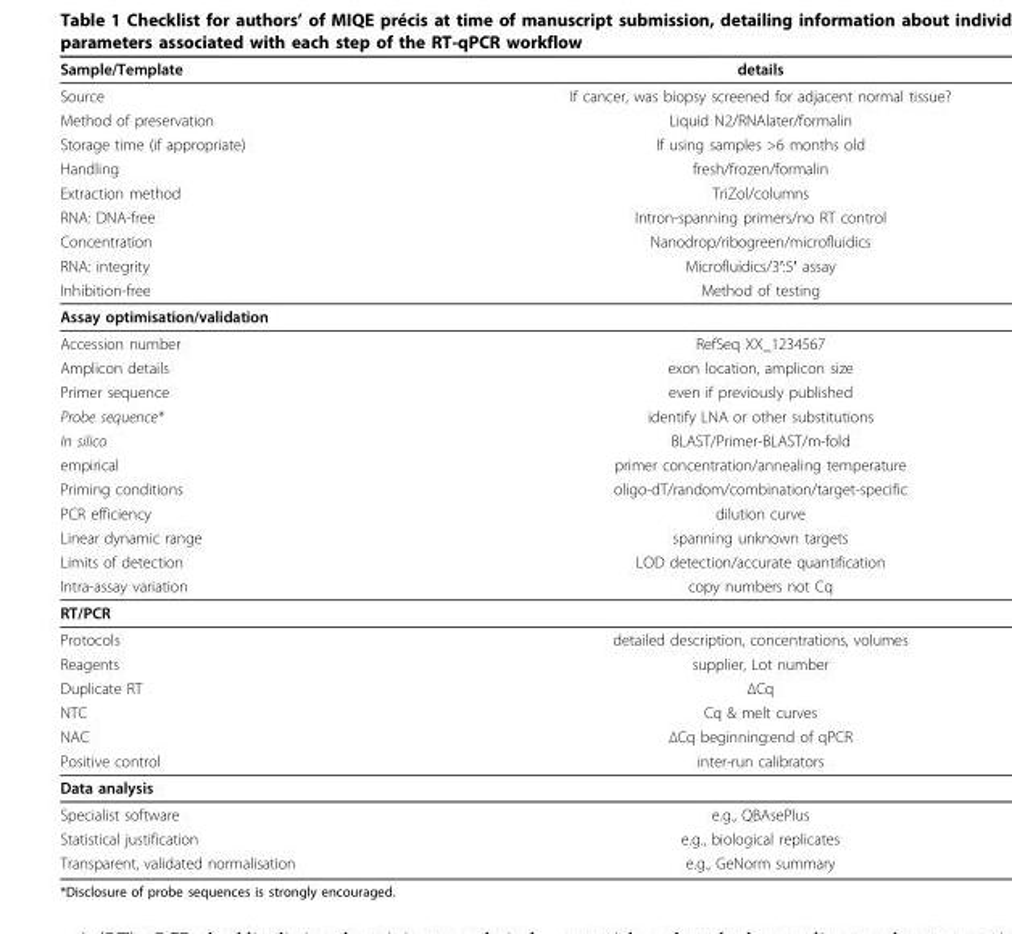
<table><thead><tr><td>Sample/Template</td><td>details</td></tr></thead><tbody><tr><td>Source</td><td>If cancer, was biopsy screened for adjacent normal tissue?</td></tr><tr><td>Method of preservation</td><td>Liquid N2/RNAlater/formalin</td></tr><tr><td>Storage time (if appropriate)</td><td>If using samples &gt;6 months old</td></tr><tr><td>Handling</td><td>fresh/frozen/formalin</td></tr><tr><td>Extraction method</td><td>TriZol/columns</td></tr><tr><td>RNA: DNA-free</td><td>Intron-spanning primers/no RT control</td></tr><tr><td>Concentration</td><td>Nanodrop/ribogreen/microfluidics</td></tr><tr><td>RNA: integrity</td><td>Microfluidics/3′:5′ assay</td></tr><tr><td>Inhibition-free</td><td>Method of testing</td></tr><tr><td colspan="2">Assay optimisation/validation</td></tr><tr><td>Accession number</td><td>RefSeq XX_1234567</td></tr><tr><td>Amplicon details</td><td>exon location, amplicon size</td></tr><tr><td>Primer sequence</td><td>even if previously published</td></tr><tr><td>Probe sequence*</td><td>identify LNA or other substitutions</td></tr><tr><td>In silico</td><td>BLAST/Primer-BLAST/m-fold</td></tr><tr><td>empirical</td><td>primer concentration/annealing temperature</td></tr><tr><td>Priming conditions</td><td>oligo-dT/random/combination/target-specific</td></tr><tr><td>PCR efficiency</td><td>dilution curve</td></tr><tr><td>Linear dynamic range</td><td>spanning unknown targets</td></tr><tr><td>Limits of detection</td><td>LOD detection/accurate quantification</td></tr><tr><td>Intra-assay variation</td><td>copy numbers not Cq</td></tr><tr><td colspan="2">RT/PCR</td></tr><tr><td>Protocols</td><td>detailed description, concentrations, volumes</td></tr><tr><td>Reagents</td><td>supplier, Lot number</td></tr><tr><td>Duplicate RT</td><td>ΔCq</td></tr><tr><td>NTC</td><td>Cq &amp; melt curves</td></tr><tr><td>NAC</td><td>ΔCq beginning:end of qPCR</td></tr><tr><td>Positive control</td><td>inter-run calibrators</td></tr><tr><td colspan="2">Data analysis</td></tr><tr><td>Specialist software</td><td>e.g., QBAsePlus</td></tr><tr><td>Statistical justification</td><td>e.g., biological replicates</td></tr><tr><td>Transparent, validated normalisation</td><td>e.g., GeNorm summary</td></tr></tbody></table>